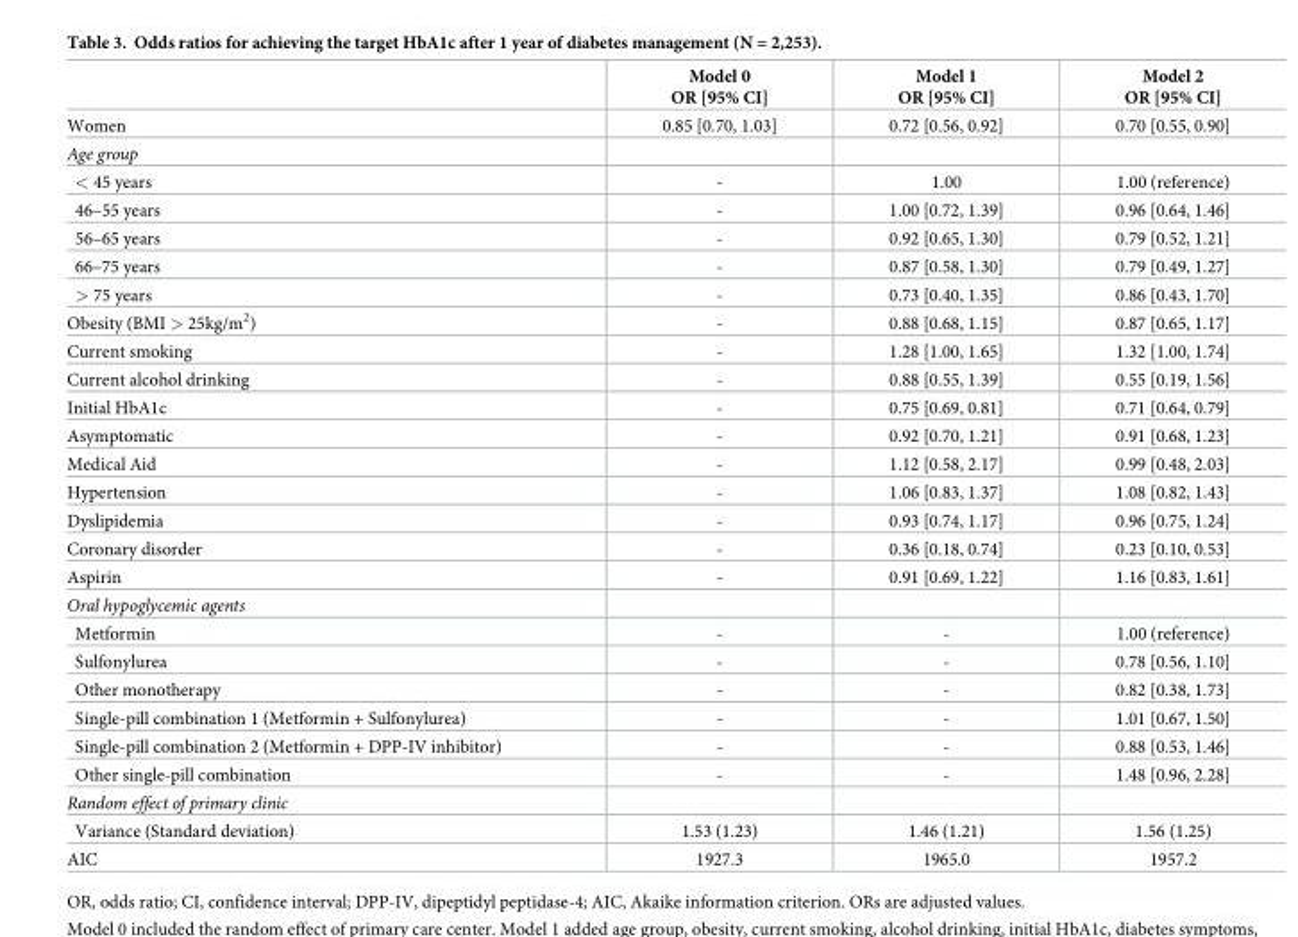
<table><thead><tr><td></td><td>Model 0 OR [95% CI]</td><td>Model 1 OR [95% CI]</td><td>Model 2 OR [95% CI]</td></tr></thead><tbody><tr><td>Women</td><td>0.85 [0.70, 1.03]</td><td>0.72 [0.56, 0.92]</td><td>0.70 [0.55, 0.90]</td></tr><tr><td colspan="4">Age group</td></tr><tr><td>&lt; 45 years</td><td>-</td><td>1.00</td><td>1.00 (reference)</td></tr><tr><td>46–55 years</td><td>-</td><td>1.00 [0.72, 1.39]</td><td>0.96 [0.64, 1.46]</td></tr><tr><td>56–65 years</td><td>-</td><td>0.92 [0.65, 1.30]</td><td>0.79 [0.52, 1.21]</td></tr><tr><td>66–75 years</td><td>-</td><td>0.87 [0.58, 1.30]</td><td>0.79 [0.49, 1.27]</td></tr><tr><td>&gt; 75 years</td><td>-</td><td>0.73 [0.40, 1.35]</td><td>0.86 [0.43, 1.70]</td></tr><tr><td>Obesity (BMI &gt; 25kg/m<sup>2</sup>)</td><td>-</td><td>0.88 [0.68, 1.15]</td><td>0.87 [0.65, 1.17]</td></tr><tr><td>Current smoking</td><td>-</td><td>1.28 [1.00, 1.65]</td><td>1.32 [1.00, 1.74]</td></tr><tr><td>Current alcohol drinking</td><td>-</td><td>0.88 [0.55, 1.39]</td><td>0.55 [0.19, 1.56]</td></tr><tr><td>Initial HbA1c</td><td>-</td><td>0.75 [0.69, 0.81]</td><td>0.71 [0.64, 0.79]</td></tr><tr><td>Asymptomatic</td><td>-</td><td>0.92 [0.70, 1.21]</td><td>0.91 [0.68, 1.23]</td></tr><tr><td>Medical Aid</td><td>-</td><td>1.12 [0.58, 2.17]</td><td>0.99 [0.48, 2.03]</td></tr><tr><td>Hypertension</td><td>-</td><td>1.06 [0.83, 1.37]</td><td>1.08 [0.82, 1.43]</td></tr><tr><td>Dyslipidemia</td><td>-</td><td>0.93 [0.74, 1.17]</td><td>0.96 [0.75, 1.24]</td></tr><tr><td>Coronary disorder</td><td>-</td><td>0.36 [0.18, 0.74]</td><td>0.23 [0.10, 0.53]</td></tr><tr><td>Aspirin</td><td>-</td><td>0.91 [0.69, 1.22]</td><td>1.16 [0.83, 1.61]</td></tr><tr><td colspan="4">Oral hypoglycemic agents</td></tr><tr><td>Metformin</td><td>-</td><td>-</td><td>1.00 (reference)</td></tr><tr><td>Sulfonylurea</td><td>-</td><td>-</td><td>0.78 [0.56, 1.10]</td></tr><tr><td>Other monotherapy</td><td>-</td><td>-</td><td>0.82 [0.38, 1.73]</td></tr><tr><td>Single-pill combination 1 (Metformin + Sulfonylurea)</td><td>-</td><td>-</td><td>1.01 [0.67, 1.50]</td></tr><tr><td>Single-pill combination 2 (Metformin + DPP-IV inhibitor)</td><td>-</td><td>-</td><td>0.88 [0.53, 1.46]</td></tr><tr><td>Other single-pill combination</td><td>-</td><td>-</td><td>1.48 [0.96, 2.28]</td></tr><tr><td colspan="4">Random effect of primary clinic</td></tr><tr><td>Variance (Standard deviation)</td><td>1.53 (1.23)</td><td>1.46 (1.21)</td><td>1.56 (1.25)</td></tr><tr><td>AIC</td><td>1927.3</td><td>1965.0</td><td>1957.2</td></tr></tbody></table>